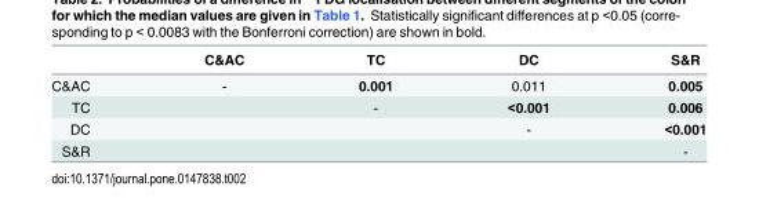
<table><thead><tr><td></td><td>C&amp;AC</td><td>TC</td><td>DC</td><td>S&amp;R</td></tr></thead><tbody><tr><td>C&amp;AC</td><td>-</td><td>0.001</td><td>0.011</td><td>0.005</td></tr><tr><td>TC</td><td></td><td>-</td><td>&lt;0.001</td><td>0.006</td></tr><tr><td>DC</td><td></td><td></td><td>-</td><td>&lt;0.001</td></tr><tr><td>S&amp;R</td><td></td><td></td><td></td><td>-</td></tr></tbody></table>